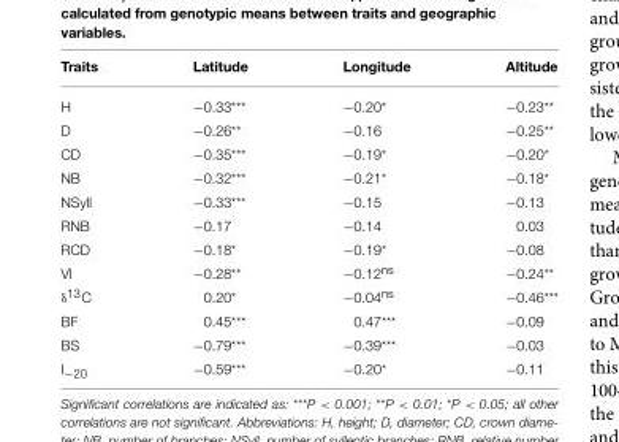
<table><thead><tr><td>Traits</td><td>Latitude</td><td>Longitude</td><td>Altitude</td></tr></thead><tbody><tr><td>H</td><td>−0.33***</td><td>−0.20*</td><td>−0.23**</td></tr><tr><td>D</td><td>−0.26**</td><td>−0.16</td><td>−0.25**</td></tr><tr><td>CD</td><td>−0.35***</td><td>−0.19*</td><td>−0.20*</td></tr><tr><td>NB</td><td>−0.32***</td><td>−0.21*</td><td>−0.18*</td></tr><tr><td>NSyll</td><td>−0.33***</td><td>−0.15</td><td>−0.13</td></tr><tr><td>RNB</td><td>−0.17</td><td>−0.14</td><td>0.03</td></tr><tr><td>RCD</td><td>−0.18*</td><td>−0.19*</td><td>−0.08</td></tr><tr><td>VI</td><td>−0.28**</td><td>−0.12<sup>ns</sup></td><td>−0.24**</td></tr><tr><td>δ<sup>13</sup>C</td><td>0.20*</td><td>−0.04<sup>ns</sup></td><td>−0.46***</td></tr><tr><td>BF</td><td>0.45***</td><td>0.47***</td><td>−0.09</td></tr><tr><td>BS</td><td>−0.79***</td><td>−0.39***</td><td>−0.03</td></tr><tr><td>I<sub>−20</sub></td><td>−0.59***</td><td>−0.20*</td><td>−0.11</td></tr></tbody></table>